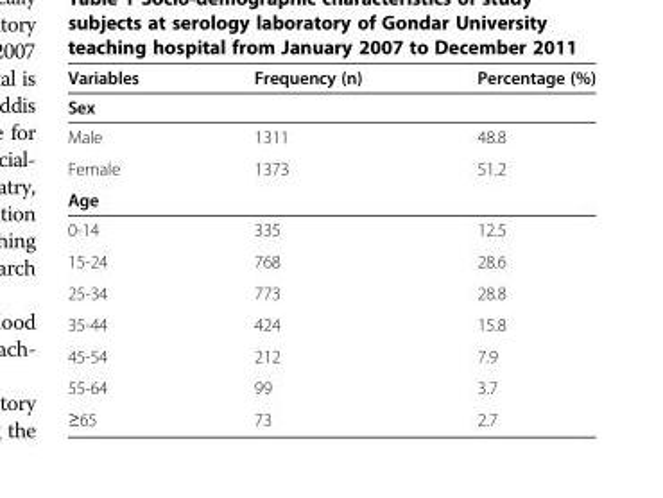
<table><thead><tr><td>Variables</td><td>Frequency (n)</td><td>Percentage (%)</td></tr></thead><tbody><tr><td colspan="3">Sex</td></tr><tr><td>Male</td><td>1311</td><td>48.8</td></tr><tr><td>Female</td><td>1373</td><td>51.2</td></tr><tr><td colspan="3">Age</td></tr><tr><td>0-14</td><td>335</td><td>12.5</td></tr><tr><td>15-24</td><td>768</td><td>28.6</td></tr><tr><td>25-34</td><td>773</td><td>28.8</td></tr><tr><td>35-44</td><td>424</td><td>15.8</td></tr><tr><td>45-54</td><td>212</td><td>7.9</td></tr><tr><td>55-64</td><td>99</td><td>3.7</td></tr><tr><td>≥65</td><td>73</td><td>2.7</td></tr></tbody></table>